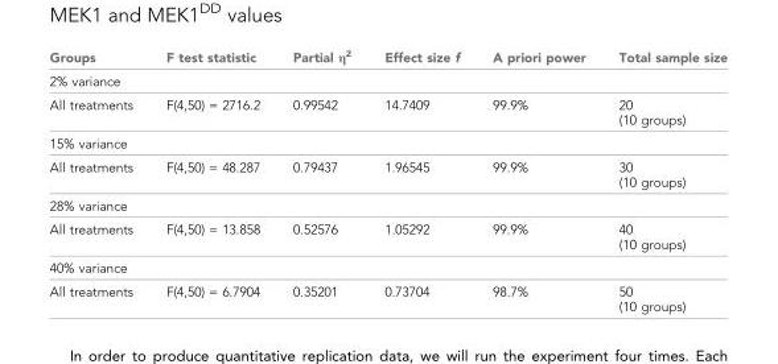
<table><thead><tr><td>Groups</td><td>F test statistic</td><td>Partial η<sup>2</sup></td><td>Effect size f</td><td>A priori power</td><td>Total sample size</td></tr></thead><tbody><tr><td colspan="6">2% variance</td></tr><tr><td>All treatments</td><td>F(4,50) = 2716.2</td><td>0.99542</td><td>14.7409</td><td>99.9%</td><td>20 (10 groups)</td></tr><tr><td colspan="6">15% variance</td></tr><tr><td>All treatments</td><td>F(4,50) = 48.287</td><td>0.79437</td><td>1.96545</td><td>99.9%</td><td>30 (10 groups)</td></tr><tr><td colspan="6">28% variance</td></tr><tr><td>All treatments</td><td>F(4,50) = 13.858</td><td>0.52576</td><td>1.05292</td><td>99.9%</td><td>40 (10 groups)</td></tr><tr><td colspan="6">40% variance</td></tr><tr><td>All treatments</td><td>F(4,50) = 6.7904</td><td>0.35201</td><td>0.73704</td><td>98.7%</td><td>50 (10 groups)</td></tr></tbody></table>